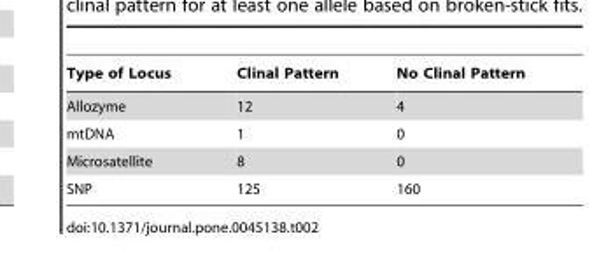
<table><thead><tr><td>Type of Locus</td><td>Clinal Pattern</td><td>No Clinal Pattern</td></tr></thead><tbody><tr><td>Allozyme</td><td>12</td><td>4</td></tr><tr><td>mtDNA</td><td>1</td><td>0</td></tr><tr><td>Microsatellite</td><td>8</td><td>0</td></tr><tr><td>SNP</td><td>125</td><td>160</td></tr></tbody></table>